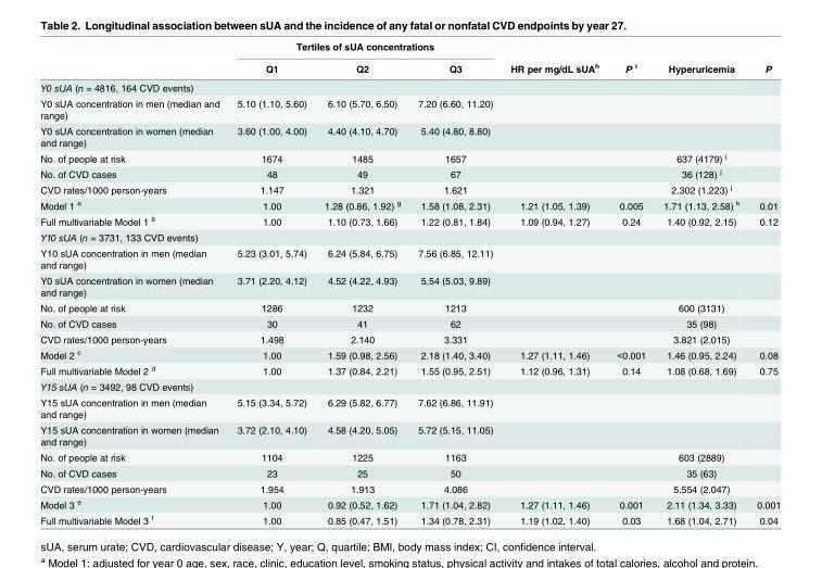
<table><thead><tr><td rowspan="2"></td><td colspan="3">Tertiles of sUA concentrations</td><td rowspan="2">HR per mg/dL sUA<sup>h</sup></td><td rowspan="2">P <sup>i</sup></td><td rowspan="2">Hyperuricemia</td><td rowspan="2">P</td></tr><tr><td>Q1</td><td>Q2</td><td>Q3</td></tr></thead><tbody><tr><td colspan="8">Y0 sUA (n = 4816, 164 CVD events)</td></tr><tr><td>Y0 sUA concentration in men (median and range)</td><td>5.10 (1.10, 5.60)</td><td>6.10 (5.70, 6.50)</td><td>7.20 (6.60, 11.20)</td><td></td><td></td><td></td><td></td></tr><tr><td>Y0 sUA concentration in women (median and range)</td><td>3.60 (1.00, 4.00)</td><td>4.40 (4.10, 4.70)</td><td>5.40 (4.80, 8.80)</td><td></td><td></td><td></td><td></td></tr><tr><td>No. of people at risk</td><td>1674</td><td>1485</td><td>1657</td><td></td><td></td><td>637 (4179) <sup>j</sup></td><td></td></tr><tr><td>No. of CVD cases</td><td>48</td><td>49</td><td>67</td><td></td><td></td><td>36 (128) <sup>j</sup></td><td></td></tr><tr><td>CVD rates/1000 person-years</td><td>1.147</td><td>1.321</td><td>1.621</td><td></td><td></td><td>2.302 (1.223) <sup>j</sup></td><td></td></tr><tr><td>Model 1 <sup>a</sup></td><td>1.00</td><td>1.28 (0.86, 1.92) <sup>g</sup></td><td>1.58 (1.08, 2.31)</td><td>1.21 (1.05, 1.39)</td><td>0.005</td><td>1.71 (1.13, 2.58) <sup>k</sup></td><td>0.01</td></tr><tr><td>Full multivariable Model 1 <sup>b</sup></td><td>1.00</td><td>1.10 (0.73, 1.66)</td><td>1.22 (0.81, 1.84)</td><td>1.09 (0.94, 1.27)</td><td>0.24</td><td>1.40 (0.92, 2.15)</td><td>0.12</td></tr><tr><td colspan="8">Y10 sUA (n = 3731, 133 CVD events)</td></tr><tr><td>Y10 sUA concentration in men (median and range)</td><td>5.23 (3.01, 5.74)</td><td>6.24 (5.84, 6.75)</td><td>7.56 (6.85, 12.11)</td><td></td><td></td><td></td><td></td></tr><tr><td>Y0 sUA concentration in women (median and range)</td><td>3.71 (2.20, 4.12)</td><td>4.52 (4.22, 4.93)</td><td>5.54 (5.03, 9.89)</td><td></td><td></td><td></td><td></td></tr><tr><td>No. of people at risk</td><td>1286</td><td>1232</td><td>1213</td><td></td><td></td><td>600 (3131)</td><td></td></tr><tr><td>No. of CVD cases</td><td>30</td><td>41</td><td>62</td><td></td><td></td><td>35 (98)</td><td></td></tr><tr><td>CVD rates/1000 person-years</td><td>1.498</td><td>2.140</td><td>3.331</td><td></td><td></td><td>3.821 (2.015)</td><td></td></tr><tr><td>Model 2 <sup>c</sup></td><td>1.00</td><td>1.59 (0.98, 2.56)</td><td>2.18 (1.40, 3.40)</td><td>1.27 (1.11, 1.46)</td><td>&lt;0.001</td><td>1.46 (0.95, 2.24)</td><td>0.08</td></tr><tr><td>Full multivariable Model 2 <sup>d</sup></td><td>1.00</td><td>1.37 (0.84, 2.21)</td><td>1.55 (0.95, 2.51)</td><td>1.12 (0.96, 1.31)</td><td>0.14</td><td>1.08 (0.68, 1.69)</td><td>0.75</td></tr><tr><td colspan="8">Y15 sUA (n = 3492, 98 CVD events)</td></tr><tr><td>Y15 sUA concentration in men (median and range)</td><td>5.15 (3.34, 5.72)</td><td>6.29 (5.82, 6.77)</td><td>7.62 (6.86, 11.91)</td><td></td><td></td><td></td><td></td></tr><tr><td>Y15 sUA concentration in women (median and range)</td><td>3.72 (2.10, 4.10)</td><td>4.58 (4.20, 5.05)</td><td>5.72 (5.15, 11.05)</td><td></td><td></td><td></td><td></td></tr><tr><td>No. of people at risk</td><td>1104</td><td>1225</td><td>1163</td><td></td><td></td><td>603 (2889)</td><td></td></tr><tr><td>No. of CVD cases</td><td>23</td><td>25</td><td>50</td><td></td><td></td><td>35 (63)</td><td></td></tr><tr><td>CVD rates/1000 person-years</td><td>1.954</td><td>1.913</td><td>4.086</td><td></td><td></td><td>5.554 (2.047)</td><td></td></tr><tr><td>Model 3 <sup>e</sup></td><td>1.00</td><td>0.92 (0.52, 1.62)</td><td>1.71 (1.04, 2.82)</td><td>1.27 (1.11, 1.46)</td><td>0.001</td><td>2.11 (1.34, 3.33)</td><td>0.001</td></tr><tr><td>Full multivariable Model 3 <sup>f</sup></td><td>1.00</td><td>0.85 (0.47, 1.51)</td><td>1.34 (0.78, 2.31)</td><td>1.19 (1.02, 1.40)</td><td>0.03</td><td>1.68 (1.04, 2.71)</td><td>0.04</td></tr></tbody></table>